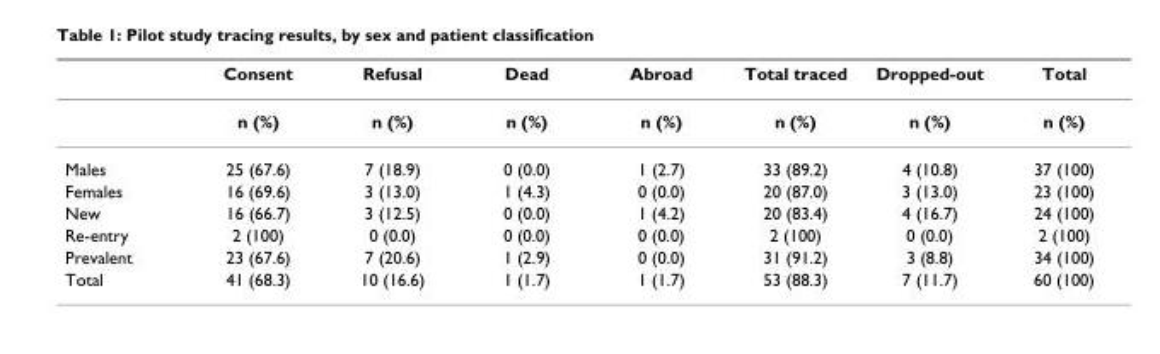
<table><thead><tr><td></td><td>Consent</td><td>Refusal</td><td>Dead</td><td>Abroad</td><td>Total traced</td><td>Dropped-out</td><td>Total</td></tr></thead><tbody><tr><td></td><td>n (%)</td><td>n (%)</td><td>n (%)</td><td>n (%)</td><td>n (%)</td><td>n (%)</td><td>n (%)</td></tr><tr><td>Males</td><td>25 (67.6)</td><td>7 (18.9)</td><td>0 (0.0)</td><td>1 (2.7)</td><td>33 (89.2)</td><td>4 (10.8)</td><td>37 (100)</td></tr><tr><td>Females</td><td>16 (69.6)</td><td>3 (13.0)</td><td>1 (4.3)</td><td>0 (0.0)</td><td>20 (87.0)</td><td>3 (13.0)</td><td>23 (100)</td></tr><tr><td>New</td><td>16 (66.7)</td><td>3 (12.5)</td><td>0 (0.0)</td><td>1 (4.2)</td><td>20 (83.4)</td><td>4 (16.7)</td><td>24 (100)</td></tr><tr><td>Re-entry</td><td>2 (100)</td><td>0 (0.0)</td><td>0 (0.0)</td><td>0 (0.0)</td><td>2 (100)</td><td>0 (0.0)</td><td>2 (100)</td></tr><tr><td>Prevalent</td><td>23 (67.6)</td><td>7 (20.6)</td><td>1 (2.9)</td><td>0 (0.0)</td><td>31 (91.2)</td><td>3 (8.8)</td><td>34 (100)</td></tr><tr><td>Total</td><td>41 (68.3)</td><td>10 (16.6)</td><td>1 (1.7)</td><td>1 (1.7)</td><td>53 (88.3)</td><td>7 (11.7)</td><td>60 (100)</td></tr></tbody></table>